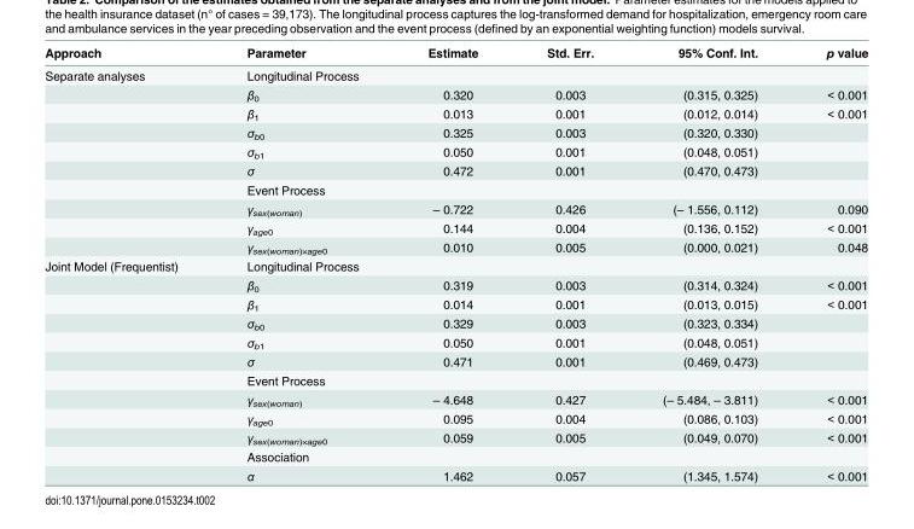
<table><thead><tr><td>Approach</td><td>Parameter</td><td>Estimate</td><td>Std. Err.</td><td>95% Conf. Int.</td><td>p‒value</td></tr></thead><tbody><tr><td rowspan="10">Separate analyses</td><td>Longitudinal Process</td><td></td><td></td><td></td><td></td></tr><tr><td>β<sub>0</sub></td><td>0.320</td><td>0.003</td><td>(0.315, 0.325)</td><td>&lt; 0.001</td></tr><tr><td>β<sub>1</sub></td><td>0.013</td><td>0.001</td><td>(0.012, 0.014)</td><td>&lt; 0.001</td></tr><tr><td>σ<sub>b0</sub></td><td>0.325</td><td>0.003</td><td>(0.320, 0.330)</td><td></td></tr><tr><td>σ<sub>b1</sub></td><td>0.050</td><td>0.001</td><td>(0.048, 0.051)</td><td></td></tr><tr><td>σ</td><td>0.472</td><td>0.001</td><td>(0.470, 0.473)</td><td></td></tr><tr><td>Event Process</td><td></td><td></td><td></td><td></td></tr><tr><td>γ<sub>sex(woman)</sub></td><td>– 0.722</td><td>0.426</td><td>(– 1.556, 0.112)</td><td>0.090</td></tr><tr><td>γ<sub>age0</sub></td><td>0.144</td><td>0.004</td><td>(0.136, 0.152)</td><td>&lt; 0.001</td></tr><tr><td>γ<sub>sex(woman)×age0</sub></td><td>0.010</td><td>0.005</td><td>(0.000, 0.021)</td><td>0.048</td></tr><tr><td rowspan="12">Joint Model (Frequentist)</td><td>Longitudinal Process</td><td></td><td></td><td></td><td></td></tr><tr><td>β<sub>0</sub></td><td>0.319</td><td>0.003</td><td>(0.314, 0.324)</td><td>&lt; 0.001</td></tr><tr><td>β<sub>1</sub></td><td>0.014</td><td>0.001</td><td>(0.013, 0.015)</td><td>&lt; 0.001</td></tr><tr><td>σ<sub>b0</sub></td><td>0.329</td><td>0.003</td><td>(0.323, 0.334)</td><td></td></tr><tr><td>σ<sub>b1</sub></td><td>0.050</td><td>0.001</td><td>(0.048, 0.051)</td><td></td></tr><tr><td>σ</td><td>0.471</td><td>0.001</td><td>(0.469, 0.473)</td><td></td></tr><tr><td>Event Process</td><td></td><td></td><td></td><td></td></tr><tr><td>γ<sub>sex(woman)</sub></td><td>– 4.648</td><td>0.427</td><td>(– 5.484, – 3.811)</td><td>&lt; 0.001</td></tr><tr><td>γ<sub>age0</sub></td><td>0.095</td><td>0.004</td><td>(0.086, 0.103)</td><td>&lt; 0.001</td></tr><tr><td>γ<sub>sex(woman)×age0</sub></td><td>0.059</td><td>0.005</td><td>(0.049, 0.070)</td><td>&lt; 0.001</td></tr><tr><td>Association</td><td></td><td></td><td></td><td></td></tr><tr><td>α</td><td>1.462</td><td>0.057</td><td>(1.345, 1.574)</td><td>&lt; 0.001</td></tr></tbody></table>